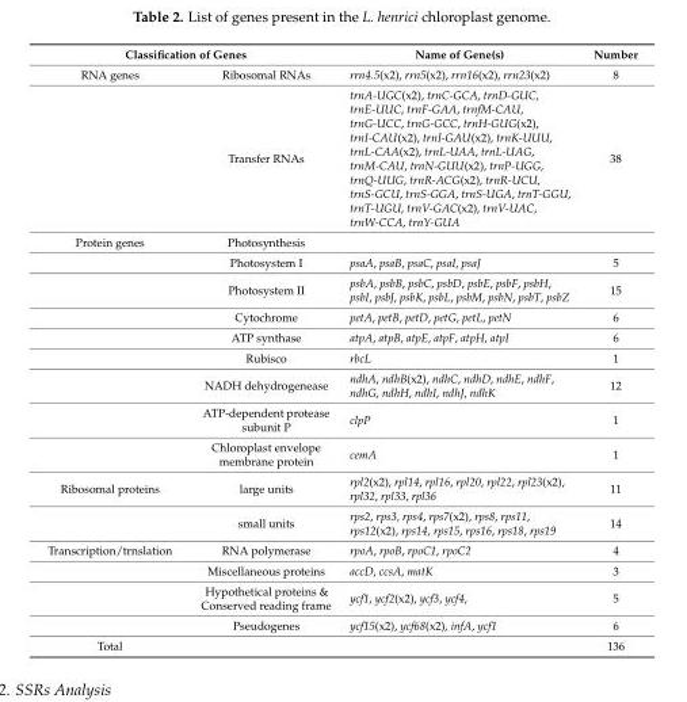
<table><thead><tr><td colspan="2">Classification of Genes</td><td rowspan="2">Name of Gene(s) rrn4.5(x2), rrn5(x2), rrn16(x2), rrn23(x2)</td><td rowspan="2">Number 8</td></tr><tr><td>RNA genes</td><td>Ribosomal RNAs</td></tr></thead><tbody><tr><td></td><td>Transfer RNAs</td><td>trnA-UGC(x2), trnC-GCA, trnD-GUC, trnE-UUC, trnF-GAA, trnfM-CAU, trnG-UCC, trnG-GCC, trnH-GUG(x2), trnI-CAU(x2), trnI-GAU(x2), trnK-UUU, trnL-CAA(x2), trnL-UAA, trnL-UAG, trnM-CAU, trnN-GUU(x2), trnP-UGG, trnQ-UUG, trnR-ACG(x2), trnR-UCU, trnS-GCU, trnS-GGA, trnS-UGA, trnT-GGU, trnT-UGU, trnV-GAC(x2), trnV-UAC, trnW-CCA, trnY-GUA</td><td>38</td></tr><tr><td rowspan="9">Protein genes</td><td>Photosynthesis</td><td></td><td></td></tr><tr><td>Photosystem I</td><td>psaA, psaB, psaC, psaI, psaJ</td><td>5</td></tr><tr><td>Photosystem II</td><td>psbA, psbB, psbC, psbD, psbE, psbF, psbH, psbI, psbJ, psbK, psbL, psbM, psbN, psbT, psbZ</td><td>15</td></tr><tr><td>Cytochrome</td><td>petA, petB, petD, petG, petL, petN</td><td>6</td></tr><tr><td>ATP synthase</td><td>atpA, atpB, atpE, atpF, atpH, atpI</td><td>6</td></tr><tr><td>Rubisco</td><td>rbcL</td><td>1</td></tr><tr><td>NADH dehydrogenease</td><td>ndhA, ndhB(x2), ndhC, ndhD, ndhE, ndhF, ndhG, ndhH, ndhI, ndhJ, ndhK</td><td>12</td></tr><tr><td>ATP-dependent protease subunit P</td><td>clpP</td><td>1</td></tr><tr><td>Chloroplast envelope membrane protein</td><td>cemA</td><td>1</td></tr><tr><td rowspan="2">Ribosomal proteins</td><td>large units</td><td>rpl2(x2), rpl14, rpl16, rpl20, rpl22, rpl23(x2), rpl32, rpl33, rpl36</td><td>11</td></tr><tr><td>small units</td><td>rps2, rps3, rps4, rps7(x2), rps8, rps11, rps12(x2), rps14, rps15, rps16, rps18, rps19</td><td>14</td></tr><tr><td rowspan="4">Transcription/trnslation</td><td>RNA polymerase</td><td>rpoA, rpoB, rpoC1, rpoC2</td><td>4</td></tr><tr><td>Miscellaneous proteins</td><td>accD, ccsA, matK</td><td>3</td></tr><tr><td>Hypothetical proteins &amp; Conserved reading frame</td><td>ycf1, ycf2(x2), ycf3, ycf4,</td><td>5</td></tr><tr><td>Pseudogenes</td><td>ycf15(x2), ycf68(x2), infA, ycf1</td><td>6</td></tr><tr><td>Total</td><td></td><td></td><td>136</td></tr></tbody></table>